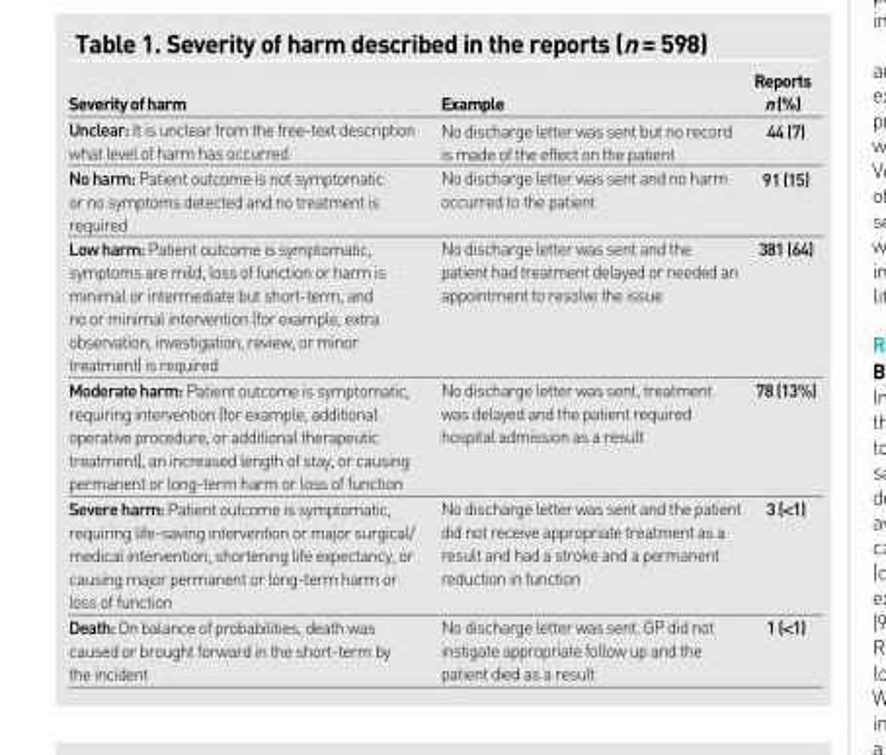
<table><thead><tr><td>Severity of harm</td><td>Example</td><td>Reports n (%)</td></tr></thead><tbody><tr><td>Unclear: It is unclear from the free-text description what level of harm has occurred</td><td>No discharge letter was sent but no record is made of the effect on the patient</td><td>44 (7)</td></tr><tr><td>No harm: Patient outcome is not symptomatic or no symptoms detected and no treatment is required</td><td>No discharge letter was sent and no harm occurred to the patient</td><td>91 (15)</td></tr><tr><td>Low harm: Patient outcome is symptomatic, symptoms are mild, loss of function or harm is minimal or intermediate but short-term, and no or minimal intervention (for example, extra observation, investigation, review, or minor treatment) is required</td><td>No discharge letter was sent and the patient had treatment delayed or needed an appointment to resolve the issue</td><td>381 (64)</td></tr><tr><td>Moderate harm: Patient outcome is symptomatic, requiring intervention (for example, additional operative procedure, or additional therapeutic treatment), an increased length of stay, or causing permanent or long-term harm or loss of function</td><td>No discharge letter was sent, treatment was delayed and the patient required hospital admission as a result</td><td>78 (13%)</td></tr><tr><td>Severe harm: Patient outcome is symptomatic, requiring life-saving intervention or major surgical/ medical intervention, shortening life expectancy, or causing major permanent or long-term harm or loss of function</td><td>No discharge letter was sent and the patient did not receive appropriate treatment as a result and had a stroke and a permanent reduction in function</td><td>3 (&lt;1)</td></tr><tr><td>Death: On balance of probabilities, death was caused or brought forward in the short-term by the incident</td><td>No discharge letter was sent. GP did not instigate appropriate follow up and the patient died as a result</td><td>1 (&lt;1)</td></tr></tbody></table>